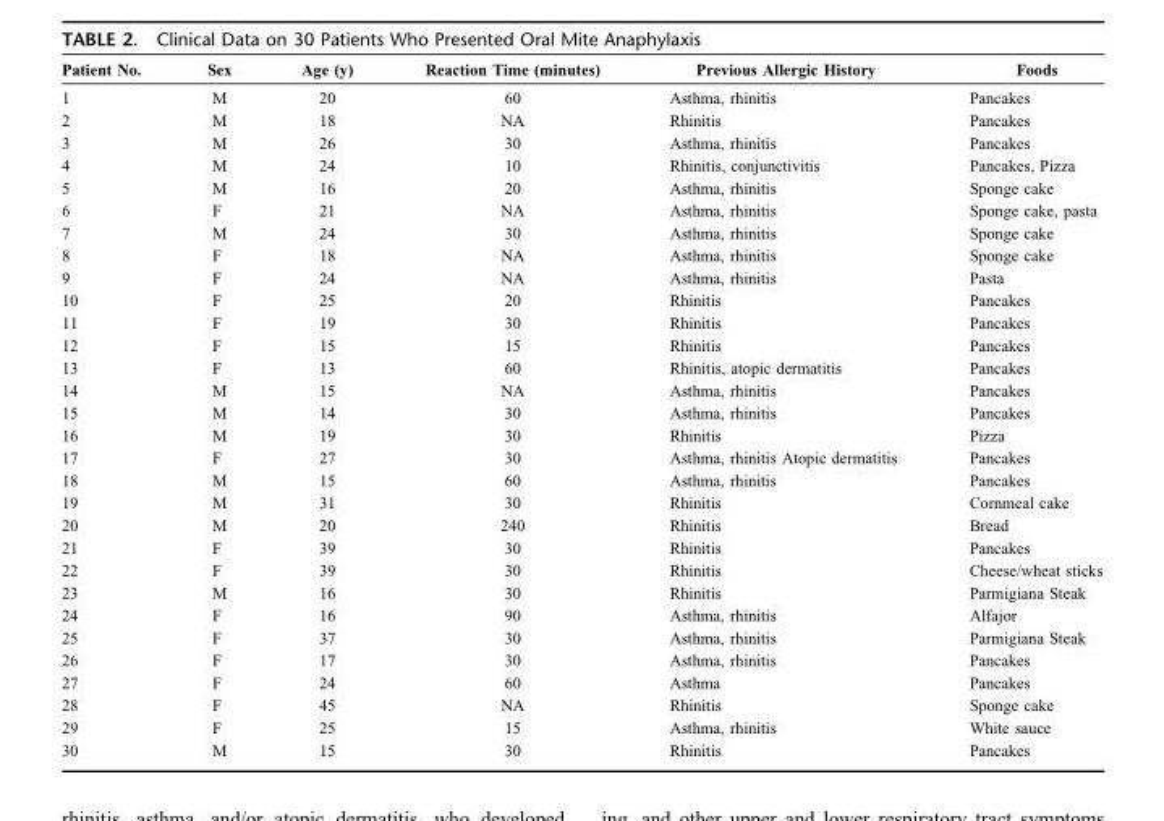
<table><thead><tr><td>Patient No.</td><td>Sex</td><td>Age (y)</td><td>Reaction Time (minutes)</td><td>Previous Allergic History</td><td>Foods</td></tr></thead><tbody><tr><td>1</td><td>M</td><td>20</td><td>60</td><td>Asthma, rhinitis</td><td>Pancakes</td></tr><tr><td>2</td><td>M</td><td>18</td><td>NA</td><td>Rhinitis</td><td>Pancakes</td></tr><tr><td>3</td><td>M</td><td>26</td><td>30</td><td>Asthma, rhinitis</td><td>Pancakes</td></tr><tr><td>4</td><td>M</td><td>24</td><td>10</td><td>Rhinitis, conjunctivitis</td><td>Pancakes, Pizza</td></tr><tr><td>5</td><td>M</td><td>16</td><td>20</td><td>Asthma, rhinitis</td><td>Sponge cake</td></tr><tr><td>6</td><td>F</td><td>21</td><td>NA</td><td>Asthma, rhinitis</td><td>Sponge cake, pasta</td></tr><tr><td>7</td><td>M</td><td>24</td><td>30</td><td>Asthma, rhinitis</td><td>Sponge cake</td></tr><tr><td>8</td><td>F</td><td>18</td><td>NA</td><td>Asthma, rhinitis</td><td>Sponge cake</td></tr><tr><td>9</td><td>F</td><td>24</td><td>NA</td><td>Asthma, rhinitis</td><td>Pasta</td></tr><tr><td>10</td><td>F</td><td>25</td><td>20</td><td>Rhinitis</td><td>Pancakes</td></tr><tr><td>11</td><td>F</td><td>19</td><td>30</td><td>Rhinitis</td><td>Pancakes</td></tr><tr><td>12</td><td>F</td><td>15</td><td>15</td><td>Rhinitis</td><td>Pancakes</td></tr><tr><td>13</td><td>F</td><td>13</td><td>60</td><td>Rhinitis, atopic dermatitis</td><td>Pancakes</td></tr><tr><td>14</td><td>M</td><td>15</td><td>NA</td><td>Asthma, rhinitis</td><td>Pancakes</td></tr><tr><td>15</td><td>M</td><td>14</td><td>30</td><td>Asthma, rhinitis</td><td>Pancakes</td></tr><tr><td>16</td><td>M</td><td>19</td><td>30</td><td>Rhinitis</td><td>Pizza</td></tr><tr><td>17</td><td>F</td><td>27</td><td>30</td><td>Asthma, rhinitis Atopic dermatitis</td><td>Pancakes</td></tr><tr><td>18</td><td>M</td><td>15</td><td>60</td><td>Asthma, rhinitis</td><td>Pancakes</td></tr><tr><td>19</td><td>M</td><td>31</td><td>30</td><td>Rhinitis</td><td>Cornmeal cake</td></tr><tr><td>20</td><td>M</td><td>20</td><td>240</td><td>Rhinitis</td><td>Bread</td></tr><tr><td>21</td><td>F</td><td>39</td><td>30</td><td>Rhinitis</td><td>Pancakes</td></tr><tr><td>22</td><td>F</td><td>39</td><td>30</td><td>Rhinitis</td><td>Cheese/wheat sticks</td></tr><tr><td>23</td><td>M</td><td>16</td><td>30</td><td>Rhinitis</td><td>Parmigiana Steak</td></tr><tr><td>24</td><td>F</td><td>16</td><td>90</td><td>Asthma, rhinitis</td><td>Alfajor</td></tr><tr><td>25</td><td>F</td><td>37</td><td>30</td><td>Asthma, rhinitis</td><td>Parmigiana Steak</td></tr><tr><td>26</td><td>F</td><td>17</td><td>30</td><td>Asthma, rhinitis</td><td>Pancakes</td></tr><tr><td>27</td><td>F</td><td>24</td><td>60</td><td>Asthma</td><td>Pancakes</td></tr><tr><td>28</td><td>F</td><td>45</td><td>NA</td><td>Rhinitis</td><td>Sponge cake</td></tr><tr><td>29</td><td>F</td><td>25</td><td>15</td><td>Asthma, rhinitis</td><td>White sauce</td></tr><tr><td>30</td><td>M</td><td>15</td><td>30</td><td>Rhinitis</td><td>Pancakes</td></tr></tbody></table>